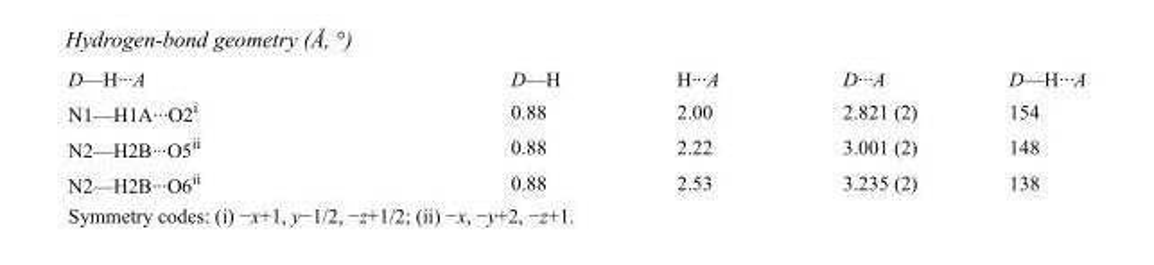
<table><tbody><tr><td>D—H···A</td><td>D—H</td><td>H···A</td><td>D···A</td><td>D—H···A</td></tr><tr><td>N1—H1A···O2<sup>i</sup></td><td>0.88</td><td>2.00</td><td>2.821 (2)</td><td>154</td></tr><tr><td>N2—H2B···O5<sup>ii</sup></td><td>0.88</td><td>2.22</td><td>3.001 (2)</td><td>148</td></tr><tr><td>N2—H2B···O6<sup>ii</sup></td><td>0.88</td><td>2.53</td><td>3.235 (2)</td><td>138</td></tr></tbody></table>